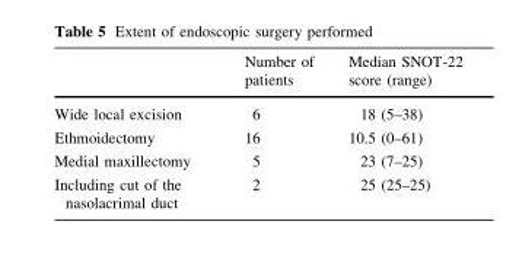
<table><thead><tr><td></td><td>Number of patients</td><td>Median SNOT-22 score (range)</td></tr></thead><tbody><tr><td>Wide local excision</td><td>6</td><td>18 (5–38)</td></tr><tr><td>Ethmoidectomy</td><td>16</td><td>10.5 (0–61)</td></tr><tr><td>Medial maxillectomy</td><td>5</td><td>23 (7–25)</td></tr><tr><td>Including cut of the nasolacrimal duct</td><td>2</td><td>25 (25–25)</td></tr></tbody></table>